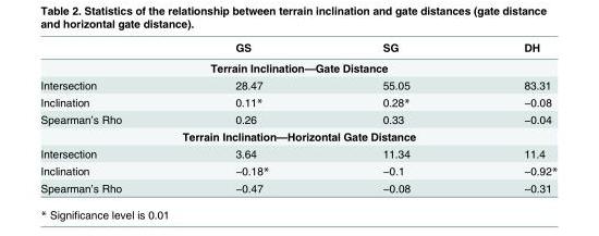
<table><thead><tr><td></td><td>GS</td><td>SG</td><td>DH</td></tr></thead><tbody><tr><td colspan="4">Terrain Inclination—Gate Distance</td></tr><tr><td>Intersection</td><td>28.47</td><td>55.05</td><td>83.31</td></tr><tr><td>Inclination</td><td>0.11*</td><td>0.28*</td><td>−0.08</td></tr><tr><td>Spearman’s Rho</td><td>0.26</td><td>0.33</td><td>−0.04</td></tr><tr><td colspan="4">Terrain Inclination—Horizontal Gate Distance</td></tr><tr><td>Intersection</td><td>3.64</td><td>11.34</td><td>11.4</td></tr><tr><td>Inclination</td><td>−0.18*</td><td>−0.1</td><td>−0.92*</td></tr><tr><td>Spearman’s Rho</td><td>−0.47</td><td>−0.08</td><td>−0.31</td></tr></tbody></table>